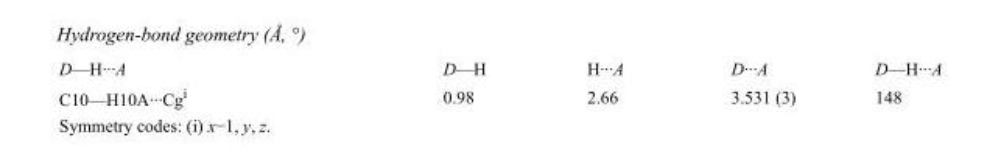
<table><tbody><tr><td>D—H···A</td><td>D—H</td><td>H···A</td><td>D···A</td><td>D—H···A</td></tr><tr><td>C10—H10A···Cg<sup>i</sup></td><td>0.98</td><td>2.66</td><td>3.531 (3)</td><td>148</td></tr></tbody></table>